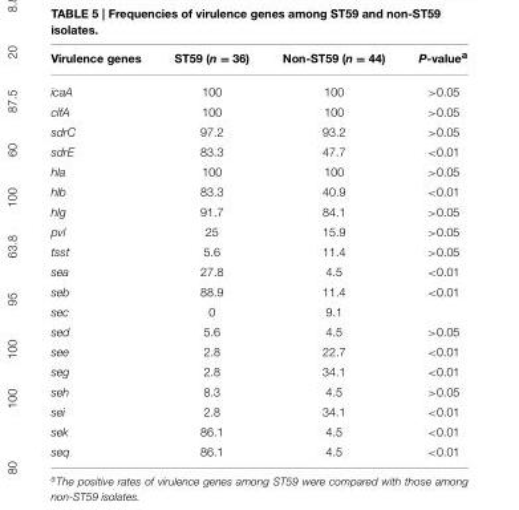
<table><thead><tr><td>Virulence genes</td><td>ST59 (n = 36)</td><td>Non-ST59 (n = 44)</td><td>P-value<sup>a</sup></td></tr></thead><tbody><tr><td>icaA</td><td>100</td><td>100</td><td>&gt;0.05</td></tr><tr><td>clfA</td><td>100</td><td>100</td><td>&gt;0.05</td></tr><tr><td>sdrC</td><td>97.2</td><td>93.2</td><td>&gt;0.05</td></tr><tr><td>sdrE</td><td>83.3</td><td>47.7</td><td>&lt;0.01</td></tr><tr><td>hla</td><td>100</td><td>100</td><td>&gt;0.05</td></tr><tr><td>hlb</td><td>83.3</td><td>40.9</td><td>&lt;0.01</td></tr><tr><td>hlg</td><td>91.7</td><td>84.1</td><td>&gt;0.05</td></tr><tr><td>pvl</td><td>25</td><td>15.9</td><td>&gt;0.05</td></tr><tr><td>tsst</td><td>5.6</td><td>11.4</td><td>&gt;0.05</td></tr><tr><td>sea</td><td>27.8</td><td>4.5</td><td>&lt;0.01</td></tr><tr><td>seb</td><td>88.9</td><td>11.4</td><td>&lt;0.01</td></tr><tr><td>sec</td><td>0</td><td>9.1</td><td></td></tr><tr><td>sed</td><td>5.6</td><td>4.5</td><td>&gt;0.05</td></tr><tr><td>see</td><td>2.8</td><td>22.7</td><td>&lt;0.01</td></tr><tr><td>seg</td><td>2.8</td><td>34.1</td><td>&lt;0.01</td></tr><tr><td>seh</td><td>8.3</td><td>4.5</td><td>&gt;0.05</td></tr><tr><td>sei</td><td>2.8</td><td>34.1</td><td>&lt;0.01</td></tr><tr><td>sek</td><td>86.1</td><td>4.5</td><td>&lt;0.01</td></tr><tr><td>seq</td><td>86.1</td><td>4.5</td><td>&lt;0.01</td></tr></tbody></table>